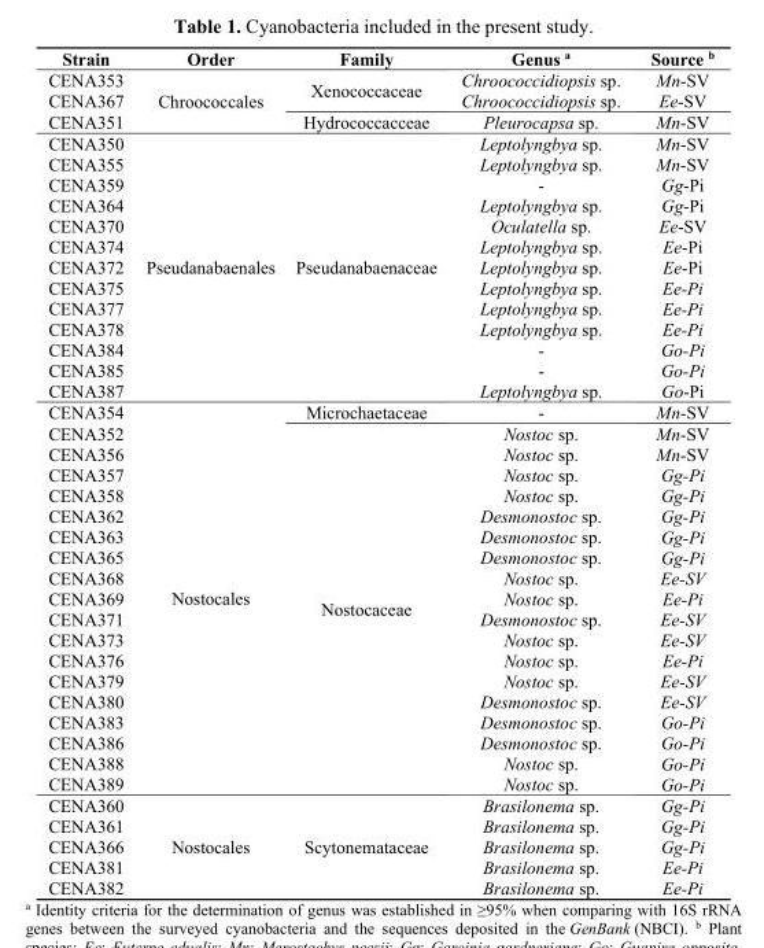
<table><thead><tr><td>Strain</td><td>Order</td><td>Family</td><td>Genus <sup>a</sup></td><td>Source <sup>b</sup></td></tr></thead><tbody><tr><td>CENA353</td><td rowspan="3">Chroococcales</td><td rowspan="2">Xenococcaceae</td><td>Chroococcidiopsis sp.</td><td>Mn-SV</td></tr><tr><td>CENA367</td><td>Chroococcidiopsis sp.</td><td>Ee-SV</td></tr><tr><td>CENA351</td><td>Hydrococcacceae</td><td>Pleurocapsa sp.</td><td>Mn-SV</td></tr><tr><td>CENA350</td><td rowspan="13">Pseudanabaenales</td><td rowspan="13">Pseudanabaenaceae</td><td>Leptolyngbya sp.</td><td>Mn-SV</td></tr><tr><td>CENA355</td><td>Leptolyngbya sp.</td><td>Mn-SV</td></tr><tr><td>CENA359</td><td>-</td><td>Gg-Pi</td></tr><tr><td>CENA364</td><td>Leptolyngbya sp.</td><td>Gg-Pi</td></tr><tr><td>CENA370</td><td>Oculatella sp.</td><td>Ee-SV</td></tr><tr><td>CENA374</td><td>Leptolyngbya sp.</td><td>Ee-Pi</td></tr><tr><td>CENA372</td><td>Leptolyngbya sp.</td><td>Ee-Pi</td></tr><tr><td>CENA375</td><td>Leptolyngbya sp.</td><td>Ee-Pi</td></tr><tr><td>CENA377</td><td>Leptolyngbya sp.</td><td>Ee-Pi</td></tr><tr><td>CENA378</td><td>Leptolyngbya sp.</td><td>Ee-Pi</td></tr><tr><td>CENA384</td><td>-</td><td>Go-Pi</td></tr><tr><td>CENA385</td><td>-</td><td>Go-Pi</td></tr><tr><td>CENA387</td><td>Leptolyngbya sp.</td><td>Go-Pi</td></tr><tr><td>CENA354</td><td rowspan="19">Nostocales</td><td>Microchaetaceae</td><td>-</td><td>Mn-SV</td></tr><tr><td>CENA352</td><td rowspan="18">Nostocaceae</td><td>Nostoc sp.</td><td>Mn-SV</td></tr><tr><td>CENA356</td><td>Nostoc sp.</td><td>Mn-SV</td></tr><tr><td>CENA357</td><td>Nostoc sp.</td><td>Gg-Pi</td></tr><tr><td>CENA358</td><td>Nostoc sp.</td><td>Gg-Pi</td></tr><tr><td>CENA362</td><td>Desmonostoc sp.</td><td>Gg-Pi</td></tr><tr><td>CENA363</td><td>Desmonostoc sp.</td><td>Gg-Pi</td></tr><tr><td>CENA365</td><td>Desmonostoc sp.</td><td>Gg-Pi</td></tr><tr><td>CENA368</td><td>Nostoc sp.</td><td>Ee-SV</td></tr><tr><td>CENA369</td><td>Nostoc sp.</td><td>Ee-Pi</td></tr><tr><td>CENA371</td><td>Desmonostoc sp.</td><td>Ee-SV</td></tr><tr><td>CENA373</td><td>Nostoc sp.</td><td>Ee-SV</td></tr><tr><td>CENA376</td><td>Nostoc sp.</td><td>Ee-Pi</td></tr><tr><td>CENA379</td><td>Nostoc sp.</td><td>Ee-SV</td></tr><tr><td>CENA380</td><td>Desmonostoc sp.</td><td>Ee-SV</td></tr><tr><td>CENA383</td><td>Desmonostoc sp.</td><td>Go-Pi</td></tr><tr><td>CENA386</td><td>Desmonostoc sp.</td><td>Go-Pi</td></tr><tr><td>CENA388</td><td>Nostoc sp.</td><td>Go-Pi</td></tr><tr><td>CENA389</td><td>Nostoc sp.</td><td>Go-Pi</td></tr><tr><td>CENA360</td><td rowspan="5">Nostocales</td><td rowspan="5">Scytonemataceae</td><td>Brasilonema sp.</td><td>Gg-Pi</td></tr><tr><td>CENA361</td><td>Brasilonema sp.</td><td>Gg-Pi</td></tr><tr><td>CENA366</td><td>Brasilonema sp.</td><td>Gg-Pi</td></tr><tr><td>CENA381</td><td>Brasilonema sp.</td><td>Ee-Pi</td></tr><tr><td>CENA382</td><td>Brasilonema sp.</td><td>Ee-Pi</td></tr></tbody></table>